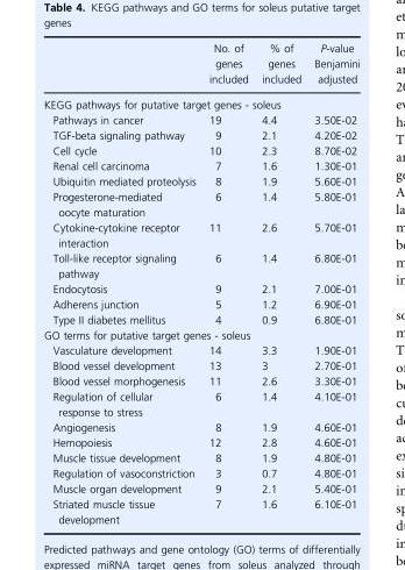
<table><thead><tr><td></td><td>No. of genes included</td><td>% of genes included</td><td>P-value Benjamini adjusted</td></tr></thead><tbody><tr><td colspan="4">KEGG pathways for putative target genes - soleus</td></tr><tr><td>Pathways in cancer</td><td>19</td><td>4.4</td><td>3.50E-02</td></tr><tr><td>TGF-beta signaling pathway</td><td>9</td><td>2.1</td><td>4.20E-02</td></tr><tr><td>Cell cycle</td><td>10</td><td>2.3</td><td>8.70E-02</td></tr><tr><td>Renal cell carcinoma</td><td>7</td><td>1.6</td><td>1.30E-01</td></tr><tr><td>Ubiquitin mediated proteolysis</td><td>8</td><td>1.9</td><td>5.60E-01</td></tr><tr><td>Progesterone-mediated oocyte maturation</td><td>6</td><td>1.4</td><td>5.80E-01</td></tr><tr><td>Cytokine-cytokine receptor interaction</td><td>11</td><td>2.6</td><td>5.70E-01</td></tr><tr><td>Toll-like receptor signaling pathway</td><td>6</td><td>1.4</td><td>6.80E-01</td></tr><tr><td>Endocytosis</td><td>9</td><td>2.1</td><td>7.00E-01</td></tr><tr><td>Adherens junction</td><td>5</td><td>1.2</td><td>6.90E-01</td></tr><tr><td>Type II diabetes mellitus</td><td>4</td><td>0.9</td><td>6.80E-01</td></tr><tr><td colspan="4">GO terms for putative target genes - soleus</td></tr><tr><td>Vasculature development</td><td>14</td><td>3.3</td><td>1.90E-01</td></tr><tr><td>Blood vessel development</td><td>13</td><td>3</td><td>2.70E-01</td></tr><tr><td>Blood vessel morphogenesis</td><td>11</td><td>2.6</td><td>3.30E-01</td></tr><tr><td>Regulation of cellular response to stress</td><td>6</td><td>1.4</td><td>4.10E-01</td></tr><tr><td>Angiogenesis</td><td>8</td><td>1.9</td><td>4.60E-01</td></tr><tr><td>Hemopoiesis</td><td>12</td><td>2.8</td><td>4.60E-01</td></tr><tr><td>Muscle tissue development</td><td>8</td><td>1.9</td><td>4.80E-01</td></tr><tr><td>Regulation of vasoconstriction</td><td>3</td><td>0.7</td><td>4.80E-01</td></tr><tr><td>Muscle organ development</td><td>9</td><td>2.1</td><td>5.40E-01</td></tr><tr><td>Striated muscle tissue development</td><td>7</td><td>1.6</td><td>6.10E-01</td></tr></tbody></table>